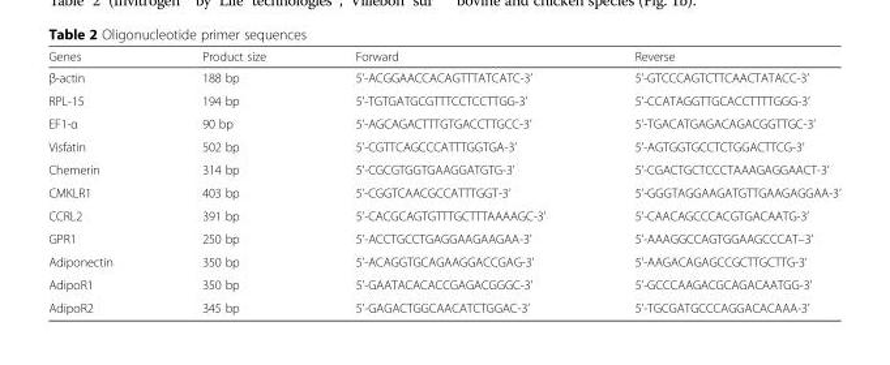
<table><thead><tr><td>Genes</td><td>Product size</td><td>Forward</td><td>Reverse</td></tr></thead><tbody><tr><td>β-actin</td><td>188 bp</td><td>5’-ACGGAACCACAGTTTATCATC-3’</td><td>5’-GTCCCAGTCTTCAACTATACC-3’</td></tr><tr><td>RPL-15</td><td>194 bp</td><td>5’-TGTGATGCGTTTCCTCCTTGG-3’</td><td>5’-CCATAGGTTGCACCTTTTGGG-3’</td></tr><tr><td>EF1-α</td><td>90 bp</td><td>5’-AGCAGACTTTGTGACCTTGCC-3’</td><td>5’-TGACATGAGACAGACGGTTGC-3’</td></tr><tr><td>Visfatin</td><td>502 bp</td><td>5’-CGTTCAGCCCATTTGGTGA-3’</td><td>5’-AGTGGTGCCTCTGGACTTCG-3’</td></tr><tr><td>Chemerin</td><td>314 bp</td><td>5’-CGCGTGGTGAAGGATGTG-3’</td><td>5’-CGACTGCTCCCTAAAGAGGAACT-3’</td></tr><tr><td>CMKLR1</td><td>403 bp</td><td>5’-CGGTCAACGCCATTTGGT-3’</td><td>5’-GGGTAGGAAGATGTTGAAGAGGAA-3’</td></tr><tr><td>CCRL2</td><td>391 bp</td><td>5’-CACGCAGTGTTTGCTTTAAAAGC-3’</td><td>5’-CAACAGCCCACGTGACAATG-3’</td></tr><tr><td>GPR1</td><td>250 bp</td><td>5’-ACCTGCCTGAGGAAGAAGAA-3’</td><td>5’-AAAGGCCAGTGGAAGCCCAT–3’</td></tr><tr><td>Adiponectin</td><td>350 bp</td><td>5’-ACAGGTGCAGAAGGACCGAG-3’</td><td>5’-AAGACAGAGCCGCTTGCTTG-3’</td></tr><tr><td>AdipoR1</td><td>350 bp</td><td>5’-GAATACACACCGAGACGGGC-3’</td><td>5’-GCCCAAGACGCAGACAATGG-3’</td></tr><tr><td>AdipoR2</td><td>345 bp</td><td>5’-GAGACTGGCAACATCTGGAC-3’</td><td>5’-TGCGATGCCCAGGACACAAA-3’</td></tr></tbody></table>